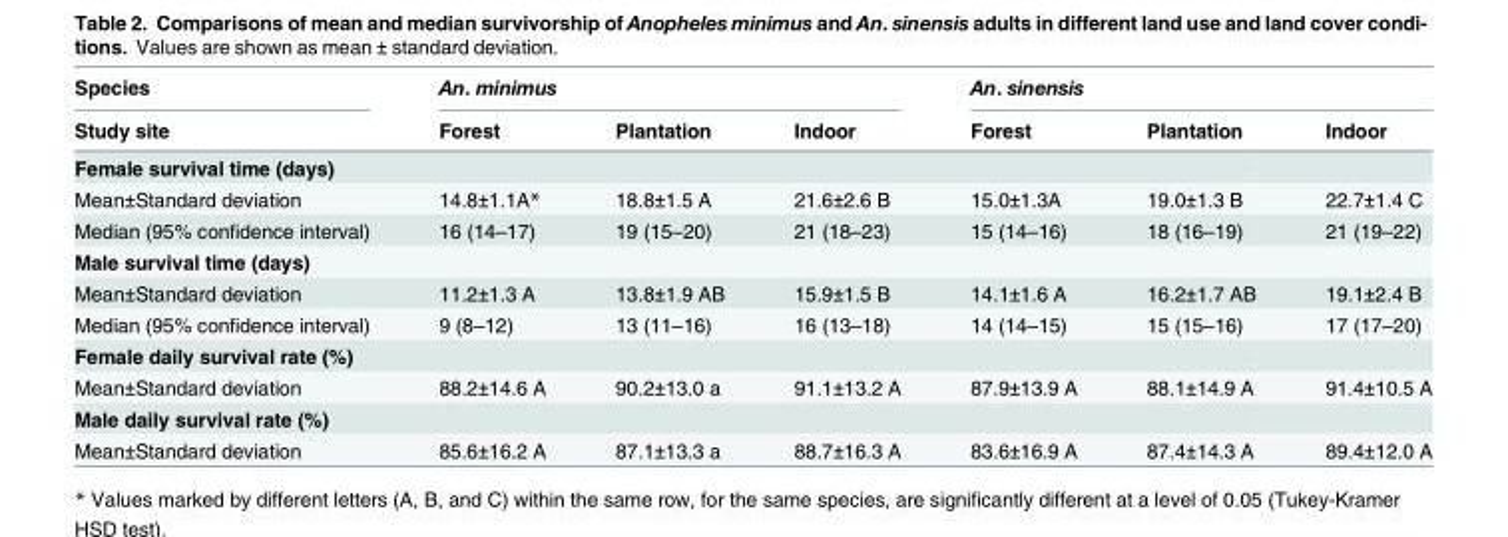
<table><thead><tr><td rowspan="2">Species Study site</td><td colspan="3">An. minimus</td><td colspan="3">An. sinensis</td></tr><tr><td>Forest</td><td>Plantation</td><td>Indoor</td><td>Forest</td><td>Plantation</td><td>Indoor</td></tr></thead><tbody><tr><td colspan="7">Female survival time (days)</td></tr><tr><td>Mean±Standard deviation</td><td>14.8±1.1A*</td><td>18.8±1.5 A</td><td>21.6±2.6 B</td><td>15.0±1.3A</td><td>19.0±1.3 B</td><td>22.7±1.4 C</td></tr><tr><td>Median (95% confidence interval)</td><td>16 (14–17)</td><td>19 (15–20)</td><td>21 (18–23)</td><td>15 (14–16)</td><td>18 (16–19)</td><td>21 (19–22)</td></tr><tr><td colspan="7">Male survival time (days)</td></tr><tr><td>Mean±Standard deviation</td><td>11.2±1.3 A</td><td>13.8±1.9 AB</td><td>15.9±1.5 B</td><td>14.1±1.6 A</td><td>16.2±1.7 AB</td><td>19.1±2.4 B</td></tr><tr><td>Median (95% confidence interval)</td><td>9 (8–12)</td><td>13 (11–16)</td><td>16 (13–18)</td><td>14 (14–15)</td><td>15 (15–16)</td><td>17 (17–20)</td></tr><tr><td colspan="7">Female daily survival rate (%)</td></tr><tr><td>Mean±Standard deviation</td><td>88.2±14.6 A</td><td>90.2±13.0 a</td><td>91.1±13.2 A</td><td>87.9±13.9 A</td><td>88.1±14.9 A</td><td>91.4±10.5 A</td></tr><tr><td colspan="7">Male daily survival rate (%)</td></tr><tr><td>Mean±Standard deviation</td><td>85.6±16.2 A</td><td>87.1±13.3 a</td><td>88.7±16.3 A</td><td>83.6±16.9 A</td><td>87.4±14.3 A</td><td>89.4±12.0 A</td></tr></tbody></table>